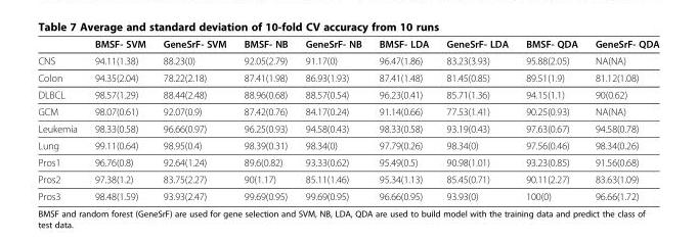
<table><thead><tr><td></td><td>BMSF- SVM</td><td>GeneSrF- SVM</td><td>BMSF- NB</td><td>GeneSrF- NB</td><td>BMSF- LDA</td><td>GeneSrF- LDA</td><td>BMSF- QDA</td><td>GeneSrF- QDA</td></tr></thead><tbody><tr><td>CNS</td><td>94.11(1.38)</td><td>88.23(0)</td><td>92.05(2.79)</td><td>91.17(0)</td><td>96.47(1.86)</td><td>83.23(3.93)</td><td>95.88(2.05)</td><td>NA(NA)</td></tr><tr><td>Colon</td><td>94.35(2.04)</td><td>78.22(2.18)</td><td>87.41(1.98)</td><td>86.93(1.93)</td><td>87.41(1.48)</td><td>81.45(0.85)</td><td>89.51(1.9)</td><td>81.12(1.08)</td></tr><tr><td>DLBCL</td><td>98.57(1.29)</td><td>88.44(2.48)</td><td>88.96(0.68)</td><td>88.57(0.54)</td><td>96.23(0.41)</td><td>85.71(1.36)</td><td>94.15(1.1)</td><td>90(0.62)</td></tr><tr><td>GCM</td><td>98.07(0.61)</td><td>92.07(0.9)</td><td>87.42(0.76)</td><td>84.17(0.24)</td><td>91.14(0.66)</td><td>77.53(1.41)</td><td>90.25(0.93)</td><td>NA(NA)</td></tr><tr><td>Leukemia</td><td>98.33(0.58)</td><td>96.66(0.97)</td><td>96.25(0.93)</td><td>94.58(0.43)</td><td>98.33(0.58)</td><td>93.19(0.43)</td><td>97.63(0.67)</td><td>94.58(0.78)</td></tr><tr><td>Lung</td><td>99.11(0.64)</td><td>98.95(0.4)</td><td>98.39(0.31)</td><td>98.34(0)</td><td>97.79(0.26)</td><td>98.34(0)</td><td>97.56(0.46)</td><td>98.34(0.26)</td></tr><tr><td>Pros1</td><td>96.76(0.8)</td><td>92.64(1.24)</td><td>89.6(0.82)</td><td>93.33(0.62)</td><td>95.49(0.5)</td><td>90.98(1.01)</td><td>93.23(0.85)</td><td>91.56(0.68)</td></tr><tr><td>Pros2</td><td>97.38(1.2)</td><td>83.75(2.27)</td><td>90(1.17)</td><td>85.11(1.46)</td><td>95.34(1.13)</td><td>85.45(0.71)</td><td>90.11(2.27)</td><td>83.63(1.09)</td></tr><tr><td>Pros3</td><td>98.48(1.59)</td><td>93.93(2.47)</td><td>99.69(0.95)</td><td>99.69(0.95)</td><td>96.66(0.95)</td><td>93.93(0)</td><td>100(0)</td><td>96.66(1.72)</td></tr></tbody></table>